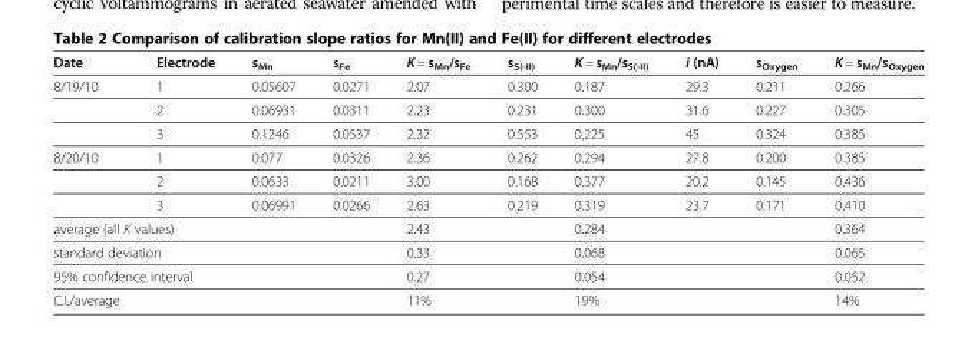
<table><thead><tr><td>Date</td><td>Electrode</td><td>s<sub>Mn</sub></td><td>s<sub>Fe</sub></td><td>K = s<sub>Mn</sub>/s<sub>Fe</sub></td><td>s<sub>S(-II)</sub></td><td>K = s<sub>Mn</sub>/s<sub>S(-II)</sub></td><td>i (nA)</td><td>s<sub>Oxygen</sub></td><td>K = s<sub>Mn</sub>/s<sub>Oxygen</sub></td></tr></thead><tbody><tr><td rowspan="3">8/19/10</td><td>1</td><td>0.05607</td><td>0.0271</td><td>2.07</td><td>0.300</td><td>0.187</td><td>29.3</td><td>0.211</td><td>0.266</td></tr><tr><td>2</td><td>0.06931</td><td>0.0311</td><td>2.23</td><td>0.231</td><td>0.300</td><td>31.6</td><td>0.227</td><td>0.305</td></tr><tr><td>3</td><td>0.1246</td><td>0.0537</td><td>2.32</td><td>0.553</td><td>0.225</td><td>45</td><td>0.324</td><td>0.385</td></tr><tr><td rowspan="3">8/20/10</td><td>1</td><td>0.077</td><td>0.0326</td><td>2.36</td><td>0.262</td><td>0.294</td><td>27.8</td><td>0.200</td><td>0.385</td></tr><tr><td>2</td><td>0.0633</td><td>0.0211</td><td>3.00</td><td>0.168</td><td>0.377</td><td>20.2</td><td>0.145</td><td>0.436</td></tr><tr><td>3</td><td>0.06991</td><td>0.0266</td><td>2.63</td><td>0.219</td><td>0.319</td><td>23.7</td><td>0.171</td><td>0.410</td></tr><tr><td colspan="4">average (all K values)</td><td>2.43</td><td></td><td>0.284</td><td></td><td></td><td>0.364</td></tr><tr><td colspan="4">standard deviation</td><td>0.33</td><td></td><td>0.068</td><td></td><td></td><td>0.065</td></tr><tr><td colspan="4">95% confidence interval</td><td>0.27</td><td></td><td>0.054</td><td></td><td></td><td>0.052</td></tr><tr><td>C.I./average</td><td></td><td></td><td></td><td>11%</td><td></td><td>19%</td><td></td><td></td><td>14%</td></tr></tbody></table>